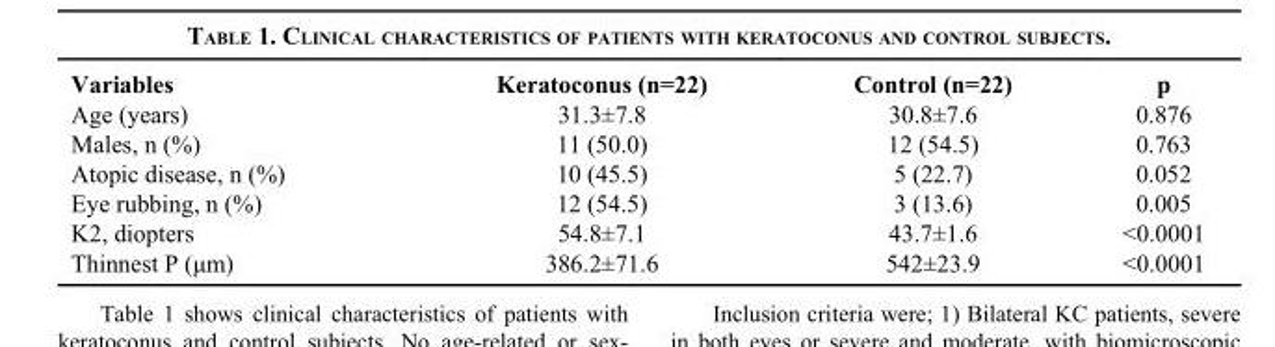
<table><thead><tr><td>Variables</td><td>Keratoconus (n=22)</td><td>Control (n=22)</td><td>p</td></tr></thead><tbody><tr><td>Age (years)</td><td>31.3±7.8</td><td>30.8±7.6</td><td>0.876</td></tr><tr><td>Males, n (%)</td><td>11 (50.0)</td><td>12 (54.5)</td><td>0.763</td></tr><tr><td>Atopic disease, n (%)</td><td>10 (45.5)</td><td>5 (22.7)</td><td>0.052</td></tr><tr><td>Eye rubbing, n (%)</td><td>12 (54.5)</td><td>3 (13.6)</td><td>0.005</td></tr><tr><td>K2, diopters</td><td>54.8±7.1</td><td>43.7±1.6</td><td>&lt;0.0001</td></tr><tr><td>Thinnest P (μm)</td><td>386.2±71.6</td><td>542±23.9</td><td>&lt;0.0001</td></tr></tbody></table>